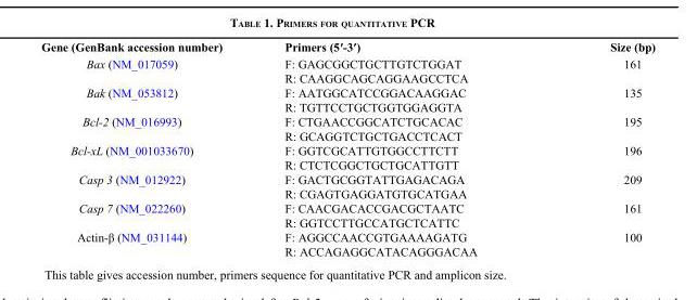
<table><thead><tr><td>Gene (GenBank accession number)</td><td>Primers (5′-3′)</td><td>Size (bp)</td></tr></thead><tbody><tr><td rowspan="2">Bax (NM_017059)</td><td>F: GAGCGGCTGCTTGTCTGGAT</td><td rowspan="2">161</td></tr><tr><td>R: CAAGGCAGCAGGAAGCCTCA</td></tr><tr><td rowspan="2">Bak (NM_053812)</td><td>F: AATGGCATCCGGACAAGGAC</td><td rowspan="2">135</td></tr><tr><td>R: TGTTCCTGCTGGTGGAGGTA</td></tr><tr><td rowspan="2">Bcl-2 (NM_016993)</td><td>F: CTGAACCGGCATCTGCACAC</td><td rowspan="2">195</td></tr><tr><td>R: GCAGGTCTGCTGACCTCACT</td></tr><tr><td rowspan="2">Bcl-xL (NM_001033670)</td><td>F: GGTCGCATTGTGGCCTTCTT</td><td rowspan="2">196</td></tr><tr><td>R: CTCTCGGCTGCTGCATTGTT</td></tr><tr><td rowspan="2">Casp 3 (NM_012922)</td><td>F: GACTGCGGTATTGAGACAGA</td><td rowspan="2">209</td></tr><tr><td>R: CGAGTGAGGATGTGCATGAA</td></tr><tr><td rowspan="2">Casp 7 (NM_022260)</td><td>F: CAACGACACCGACGCTAATC</td><td rowspan="2">161</td></tr><tr><td>R: GGTCCTTGCCATGCTCATTC</td></tr><tr><td rowspan="2">Actin-β (NM_031144)</td><td>F: AGGCCAACCGTGAAAAGATG</td><td rowspan="2">100</td></tr><tr><td>R: ACCAGAGGCATACAGGGACAA</td></tr></tbody></table>